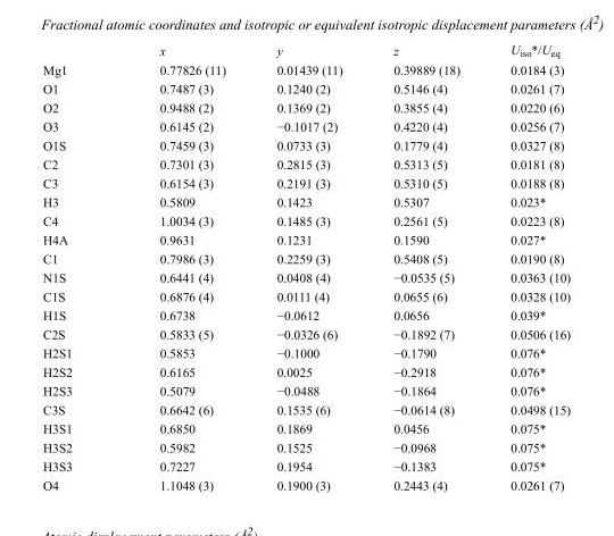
<table><thead><tr><td></td><td>x</td><td>y</td><td>z</td><td>U<sub>iso</sub>*/U<sub>eq</sub></td></tr></thead><tbody><tr><td>Mg1</td><td>0.77826 (11)</td><td>0.01439 (11)</td><td>0.39889 (18)</td><td>0.0184 (3)</td></tr><tr><td>O1</td><td>0.7487 (3)</td><td>0.1240 (2)</td><td>0.5146 (4)</td><td>0.0261 (7)</td></tr><tr><td>O2</td><td>0.9488 (2)</td><td>0.1369 (2)</td><td>0.3855 (4)</td><td>0.0220 (6)</td></tr><tr><td>O3</td><td>0.6145 (2)</td><td>−0.1017 (2)</td><td>0.4220 (4)</td><td>0.0256 (7)</td></tr><tr><td>O1S</td><td>0.7459 (3)</td><td>0.0733 (3)</td><td>0.1779 (4)</td><td>0.0327 (8)</td></tr><tr><td>C2</td><td>0.7301 (3)</td><td>0.2815 (3)</td><td>0.5313 (5)</td><td>0.0181 (8)</td></tr><tr><td>C3</td><td>0.6154 (3)</td><td>0.2191 (3)</td><td>0.5310 (5)</td><td>0.0188 (8)</td></tr><tr><td>H3</td><td>0.5809</td><td>0.1423</td><td>0.5307</td><td>0.023*</td></tr><tr><td>C4</td><td>1.0034 (3)</td><td>0.1485 (3)</td><td>0.2561 (5)</td><td>0.0223 (8)</td></tr><tr><td>H4A</td><td>0.9631</td><td>0.1231</td><td>0.1590</td><td>0.027*</td></tr><tr><td>C1</td><td>0.7986 (3)</td><td>0.2259 (3)</td><td>0.5408 (5)</td><td>0.0190 (8)</td></tr><tr><td>N1S</td><td>0.6441 (4)</td><td>0.0408 (4)</td><td>−0.0535 (5)</td><td>0.0363 (10)</td></tr><tr><td>C1S</td><td>0.6876 (4)</td><td>0.0111 (4)</td><td>0.0655 (6)</td><td>0.0328 (10)</td></tr><tr><td>H1S</td><td>0.6738</td><td>−0.0612</td><td>0.0656</td><td>0.039*</td></tr><tr><td>C2S</td><td>0.5833 (5)</td><td>−0.0326 (6)</td><td>−0.1892 (7)</td><td>0.0506 (16)</td></tr><tr><td>H2S1</td><td>0.5853</td><td>−0.1000</td><td>−0.1790</td><td>0.076*</td></tr><tr><td>H2S2</td><td>0.6165</td><td>0.0025</td><td>−0.2918</td><td>0.076*</td></tr><tr><td>H2S3</td><td>0.5079</td><td>−0.0488</td><td>−0.1864</td><td>0.076*</td></tr><tr><td>C3S</td><td>0.6642 (6)</td><td>0.1535 (6)</td><td>−0.0614 (8)</td><td>0.0498 (15)</td></tr><tr><td>H3S1</td><td>0.6850</td><td>0.1869</td><td>0.0456</td><td>0.075*</td></tr><tr><td>H3S2</td><td>0.5982</td><td>0.1525</td><td>−0.0968</td><td>0.075*</td></tr><tr><td>H3S3</td><td>0.7227</td><td>0.1954</td><td>−0.1383</td><td>0.075*</td></tr><tr><td>O4</td><td>1.1048 (3)</td><td>0.1900 (3)</td><td>0.2443 (4)</td><td>0.0261 (7)</td></tr></tbody></table>